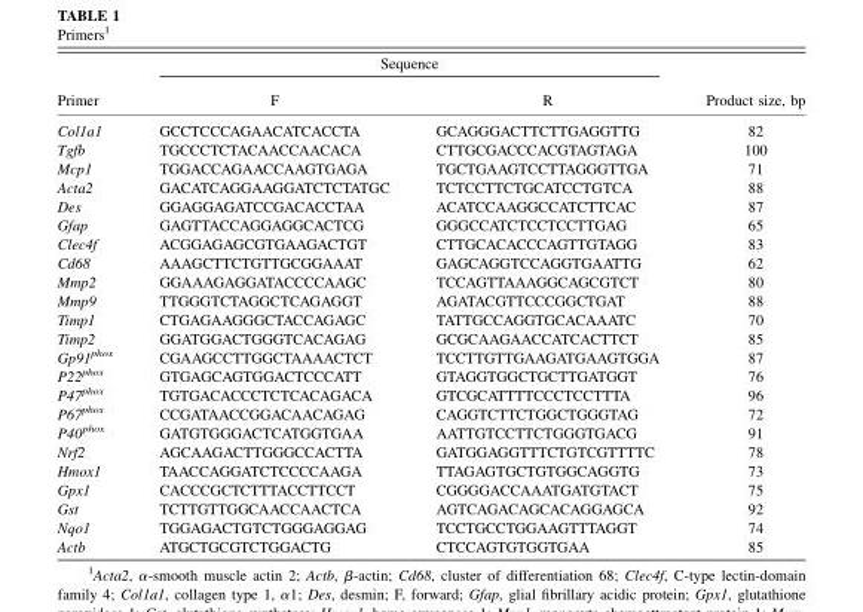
<table><thead><tr><td rowspan="2">Primer</td><td colspan="2">Sequence</td><td rowspan="2">Product size, bp</td></tr><tr><td>F</td><td>R</td></tr></thead><tbody><tr><td>Col1a1</td><td>GCCTCCCAGAACATCACCTA</td><td>GCAGGGACTTCTTGAGGTTG</td><td>82</td></tr><tr><td>Tgfb</td><td>TGCCCTCTACAACCAACACA</td><td>CTTGCGACCCACGTAGTAGA</td><td>100</td></tr><tr><td>Mcp1</td><td>TGGACCAGAACCAAGTGAGA</td><td>TGCTGAAGTCCTTAGGGTTGA</td><td>71</td></tr><tr><td>Acta2</td><td>GACATCAGGAAGGATCTCTATGC</td><td>TCTCCTTCTGCATCCTGTCA</td><td>88</td></tr><tr><td>Des</td><td>GGAGGAGATCCGACACCTAA</td><td>ACATCCAAGGCCATCTTCAC</td><td>87</td></tr><tr><td>Gfap</td><td>GAGTTACCAGGAGGCACTCG</td><td>GGGCCATCTCCTCCTTGAG</td><td>65</td></tr><tr><td>Clec4f</td><td>ACGGAGAGCGTGAAGACTGT</td><td>CTTGCACACCCAGTTGTAGG</td><td>83</td></tr><tr><td>Cd68</td><td>AAAGCTTCTGTTGCGGAAAT</td><td>GAGCAGGTCCAGGTGAATTG</td><td>62</td></tr><tr><td>Mmp2</td><td>GGAAAGAGGATACCCCAAGC</td><td>TCCAGTTAAAGGCAGCGTCT</td><td>80</td></tr><tr><td>Mmp9</td><td>TTGGGTCTAGGCTCAGAGGT</td><td>AGATACGTTCCCGGCTGAT</td><td>88</td></tr><tr><td>Timp1</td><td>CTGAGAAGGGCTACCAGAGC</td><td>TATTGCCAGGTGCACAAATC</td><td>70</td></tr><tr><td>Timp2</td><td>GGATGGACTGGGTCACAGAG</td><td>GCGCAAGAACCATCACTTCT</td><td>85</td></tr><tr><td>Gp91<sup>phox</sup></td><td>CGAAGCCTTGGCTAAAACTCT</td><td>TCCTTGTTGAAGATGAAGTGGA</td><td>87</td></tr><tr><td>P22<sup>phox</sup></td><td>GTGAGCAGTGGACTCCCATT</td><td>GTAGGTGGCTGCTTGATGGT</td><td>76</td></tr><tr><td>P47<sup>phox</sup></td><td>TGTGACACCCTCTCACAGACA</td><td>GTCGCATTTTCCCTCCTTTA</td><td>96</td></tr><tr><td>P67<sup>phox</sup></td><td>CCGATAACCGGACAACAGAG</td><td>CAGGTCTTCTGGCTGGGTAG</td><td>72</td></tr><tr><td>P40<sup>phox</sup></td><td>GATGTGGGACTCATGGTGAA</td><td>AATTGTCCTTCTGGGTGACG</td><td>91</td></tr><tr><td>Nrf2</td><td>AGCAAGACTTGGGCCACTTA</td><td>GATGGAGGTTTCTGTCGTTTTC</td><td>78</td></tr><tr><td>Hmox1</td><td>TAACCAGGATCTCCCCAAGA</td><td>TTAGAGTGCTGTGGCAGGTG</td><td>73</td></tr><tr><td>Gpx1</td><td>CACCCGCTCTTTACCTTCCT</td><td>CGGGGACCAAATGATGTACT</td><td>75</td></tr><tr><td>Gst</td><td>TCTTGTTGGCAACCAACTCA</td><td>AGTCAGACAGCACAGGAGCA</td><td>92</td></tr><tr><td>Nqo1</td><td>TGGAGACTGTCTGGGAGGAG</td><td>TCCTGCCTGGAAGTTTAGGT</td><td>74</td></tr><tr><td>Actb</td><td>ATGCTGCGTCTGGACTG</td><td>CTCCAGTGTGGTGAA</td><td>85</td></tr></tbody></table>